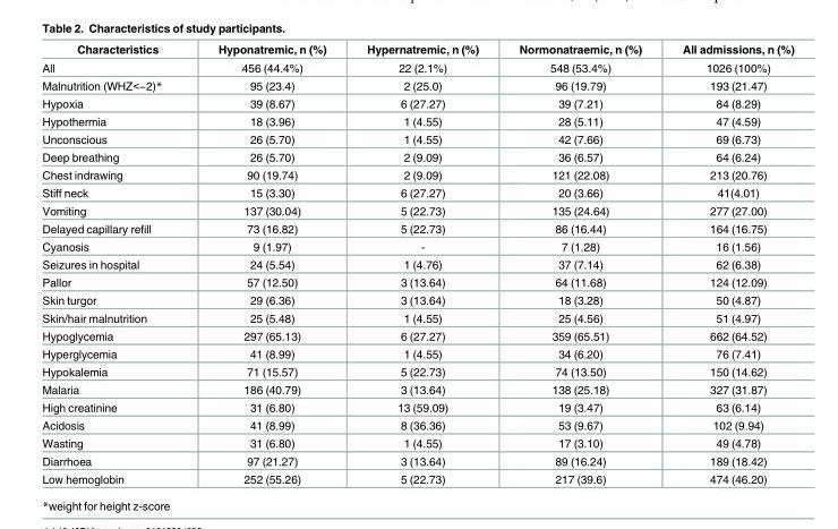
<table><thead><tr><td>Characteristics</td><td>Hyponatremic, n (%)</td><td>Hypernatremic, n (%)</td><td>Normonatraemic, n (%)</td><td>All admissions, n (%)</td></tr></thead><tbody><tr><td>All</td><td>456 (44.4%)</td><td>22 (2.1%)</td><td>548 (53.4%)</td><td>1026 (100%)</td></tr><tr><td>Malnutrition (WHZ&lt;−2)*</td><td>95 (23.4)</td><td>2 (25.0)</td><td>96 (19.79)</td><td>193 (21.47)</td></tr><tr><td>Hypoxia</td><td>39 (8.67)</td><td>6 (27.27)</td><td>39 (7.21)</td><td>84 (8.29)</td></tr><tr><td>Hypothermia</td><td>18 (3.96)</td><td>1 (4.55)</td><td>28 (5.11)</td><td>47 (4.59)</td></tr><tr><td>Unconscious</td><td>26 (5.70)</td><td>1 (4.55)</td><td>42 (7.66)</td><td>69 (6.73)</td></tr><tr><td>Deep breathing</td><td>26 (5.70)</td><td>2 (9.09)</td><td>36 (6.57)</td><td>64 (6.24)</td></tr><tr><td>Chest indrawing</td><td>90 (19.74)</td><td>2 (9.09)</td><td>121 (22.08)</td><td>213 (20.76)</td></tr><tr><td>Stiff neck</td><td>15 (3.30)</td><td>6 (27.27)</td><td>20 (3.66)</td><td>41(4.01)</td></tr><tr><td>Vomiting</td><td>137 (30.04)</td><td>5 (22.73)</td><td>135 (24.64)</td><td>277 (27.00)</td></tr><tr><td>Delayed capillary refill</td><td>73 (16.82)</td><td>5 (22.73)</td><td>86 (16.44)</td><td>164 (16.75)</td></tr><tr><td>Cyanosis</td><td>9 (1.97)</td><td>-</td><td>7 (1.28)</td><td>16 (1.56)</td></tr><tr><td>Seizures in hospital</td><td>24 (5.54)</td><td>1 (4.76)</td><td>37 (7.14)</td><td>62 (6.38)</td></tr><tr><td>Pallor</td><td>57 (12.50)</td><td>3 (13.64)</td><td>64 (11.68)</td><td>124 (12.09)</td></tr><tr><td>Skin turgor</td><td>29 (6.36)</td><td>3 (13.64)</td><td>18 (3.28)</td><td>50 (4.87)</td></tr><tr><td>Skin/hair malnutrition</td><td>25 (5.48)</td><td>1 (4.55)</td><td>25 (4.56)</td><td>51 (4.97)</td></tr><tr><td>Hypoglycemia</td><td>297 (65.13)</td><td>6 (27.27)</td><td>359 (65.51)</td><td>662 (64.52)</td></tr><tr><td>Hyperglycemia</td><td>41 (8.99)</td><td>1 (4.55)</td><td>34 (6.20)</td><td>76 (7.41)</td></tr><tr><td>Hypokalemia</td><td>71 (15.57)</td><td>5 (22.73)</td><td>74 (13.50)</td><td>150 (14.62)</td></tr><tr><td>Malaria</td><td>186 (40.79)</td><td>3 (13.64)</td><td>138 (25.18)</td><td>327 (31.87)</td></tr><tr><td>High creatinine</td><td>31 (6.80)</td><td>13 (59.09)</td><td>19 (3.47)</td><td>63 (6.14)</td></tr><tr><td>Acidosis</td><td>41 (8.99)</td><td>8 (36.36)</td><td>53 (9.67)</td><td>102 (9.94)</td></tr><tr><td>Wasting</td><td>31 (6.80)</td><td>1 (4.55)</td><td>17 (3.10)</td><td>49 (4.78)</td></tr><tr><td>Diarrhoea</td><td>97 (21.27)</td><td>3 (13.64)</td><td>89 (16.24)</td><td>189 (18.42)</td></tr><tr><td>Low hemoglobin</td><td>252 (55.26)</td><td>5 (22.73)</td><td>217 (39.6)</td><td>474 (46.20)</td></tr></tbody></table>